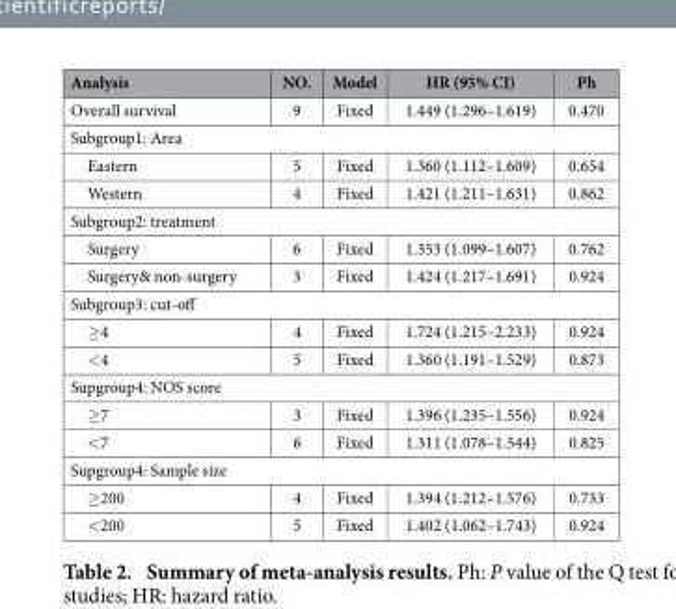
<table><thead><tr><td>Analysis</td><td>NO.</td><td>Model</td><td>HR (95% CI)</td><td>Ph</td></tr></thead><tbody><tr><td>Overall survival</td><td>9</td><td>Fixed</td><td>1.449 (1.296–1.619)</td><td>0.470</td></tr><tr><td colspan="5">Subgroup1: Area</td></tr><tr><td>Eastern</td><td>5</td><td>Fixed</td><td>1.360 (1.112–1.609)</td><td>0.654</td></tr><tr><td>Western</td><td>4</td><td>Fixed</td><td>1.421 (1.211–1.631)</td><td>0.862</td></tr><tr><td colspan="5">Subgroup2: treatment</td></tr><tr><td>Surgery</td><td>6</td><td>Fixed</td><td>1.353 (1.099–1.607)</td><td>0.762</td></tr><tr><td>Surgery&amp; non-surgery</td><td>3</td><td>Fixed</td><td>1.424 (1.217–1.691)</td><td>0.924</td></tr><tr><td colspan="5">Subgroup3: cut-off</td></tr><tr><td>≥ 4</td><td>4</td><td>Fixed</td><td>1.724 (1.215–2.233)</td><td>0.924</td></tr><tr><td>&lt; 4</td><td>5</td><td>Fixed</td><td>1.360 (1.191–1.529)</td><td>0.873</td></tr><tr><td colspan="5">Supgroup4: NOS score</td></tr><tr><td>≥ 7</td><td>3</td><td>Fixed</td><td>1.396 (1.235–1.556)</td><td>0.924</td></tr><tr><td>&lt; 7</td><td>6</td><td>Fixed</td><td>1.311 (1.078–1.544)</td><td>0.825</td></tr><tr><td colspan="5">Supgroup4: Sample size</td></tr><tr><td>≥ 200</td><td>4</td><td>Fixed</td><td>1.394 (1.212–1.576)</td><td>0.733</td></tr><tr><td>&lt; 200</td><td>5</td><td>Fixed</td><td>1.402 (1.062–1.743)</td><td>0.924</td></tr></tbody></table>